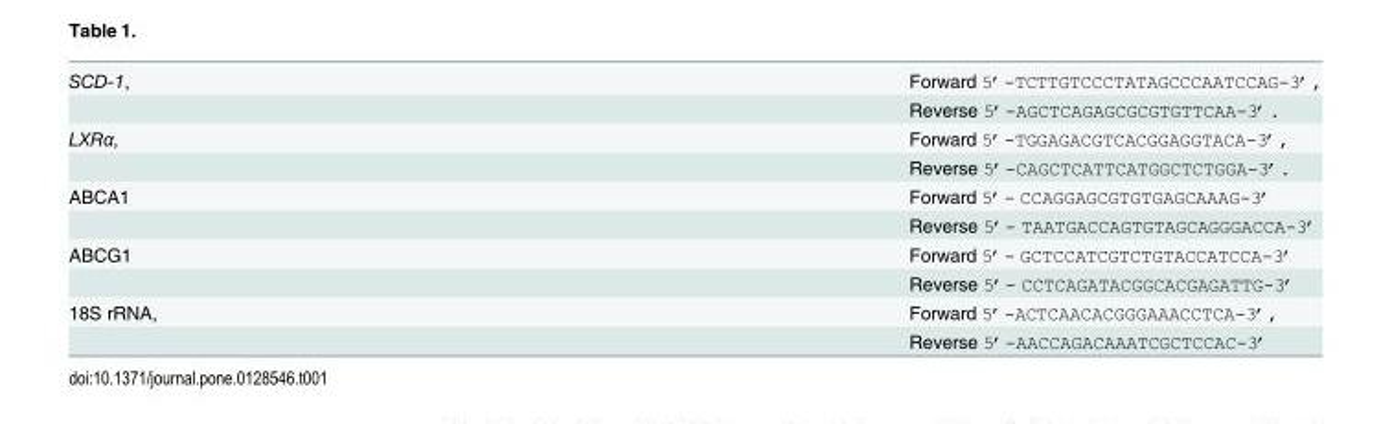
<table><tbody><tr><td rowspan="2">SCD-1,</td><td>Forward 5’-TCTTGTCCCTATAGCCCAATCCAG-3’,</td></tr><tr><td>Reverse 5’-AGCTCAGAGCGCGTGTTCAA-3’.</td></tr><tr><td rowspan="2">LXRα,</td><td>Forward 5’-TGGAGACGTCACGGAGGTACA-3’,</td></tr><tr><td>Reverse 5’-CAGCTCATTCATGGCTCTGGA-3’.</td></tr><tr><td rowspan="2">ABCA1</td><td>Forward 5’- CCAGGAGCGTGTGAGCAAAG-3’</td></tr><tr><td>Reverse 5’- TAATGACCAGTGTAGCAGGGACCA-3’</td></tr><tr><td rowspan="2">ABCG1</td><td>Forward 5’- GCTCCATCGTCTGTACCATCCA-3’</td></tr><tr><td>Reverse 5’- CCTCAGATACGGCACGAGATTG-3’</td></tr><tr><td rowspan="2">18S rRNA,</td><td>Forward 5’-ACTCAACACGGGAAACCTCA-3’,</td></tr><tr><td>Reverse 5’-AACCAGACAAATCGCTCCAC-3’</td></tr></tbody></table>